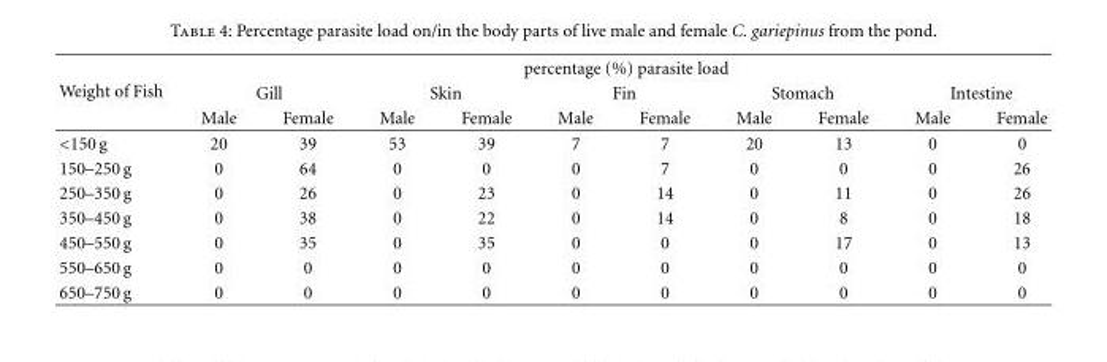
<table><thead><tr><td rowspan="3">Weight of Fish</td><td colspan="10">percentage (%) parasite load</td></tr><tr><td colspan="2">Gill</td><td colspan="2">Skin</td><td colspan="2">Fin</td><td colspan="2">Stomach</td><td colspan="2">Intestine</td></tr><tr><td>Male</td><td>Female</td><td>Male</td><td>Female</td><td>Male</td><td>Female</td><td>Male</td><td>Female</td><td>Male</td><td>Female</td></tr></thead><tbody><tr><td>&lt;150 g</td><td>20</td><td>39</td><td>53</td><td>39</td><td>7</td><td>7</td><td>20</td><td>13</td><td>0</td><td>0</td></tr><tr><td>150–250 g</td><td>0</td><td>64</td><td>0</td><td>0</td><td>0</td><td>7</td><td>0</td><td>0</td><td>0</td><td>26</td></tr><tr><td>250–350 g</td><td>0</td><td>26</td><td>0</td><td>23</td><td>0</td><td>14</td><td>0</td><td>11</td><td>0</td><td>26</td></tr><tr><td>350–450 g</td><td>0</td><td>38</td><td>0</td><td>22</td><td>0</td><td>14</td><td>0</td><td>8</td><td>0</td><td>18</td></tr><tr><td>450–550 g</td><td>0</td><td>35</td><td>0</td><td>35</td><td>0</td><td>0</td><td>0</td><td>17</td><td>0</td><td>13</td></tr><tr><td>550–650 g</td><td>0</td><td>0</td><td>0</td><td>0</td><td>0</td><td>0</td><td>0</td><td>0</td><td>0</td><td>0</td></tr><tr><td>650–750 g</td><td>0</td><td>0</td><td>0</td><td>0</td><td>0</td><td>0</td><td>0</td><td>0</td><td>0</td><td>0</td></tr></tbody></table>